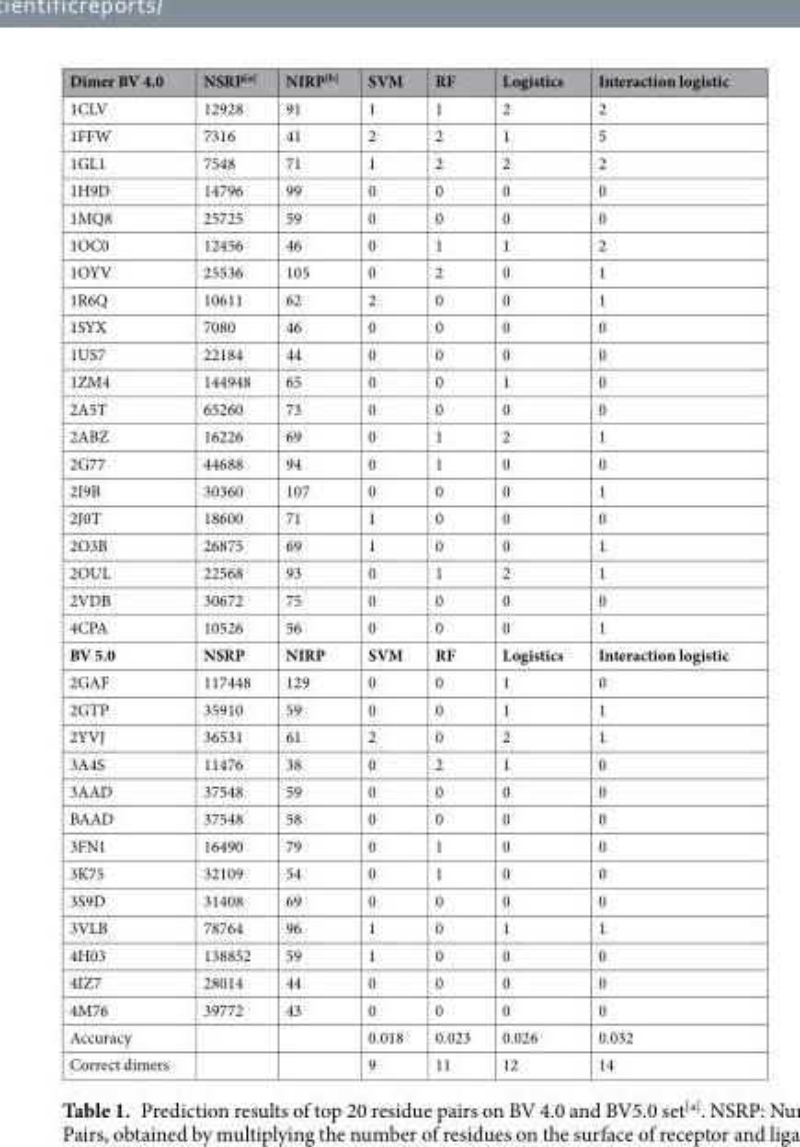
<table><thead><tr><td>Dimer BV 4.0</td><td>NSRP<sup>[a]</sup></td><td>NIRP<sup>[b]</sup></td><td>SVM</td><td>RF</td><td>Logistics</td><td>Interaction logistic</td></tr></thead><tbody><tr><td>1CLV</td><td>12928</td><td>91</td><td>1</td><td>1</td><td>2</td><td>2</td></tr><tr><td>1FFW</td><td>7316</td><td>41</td><td>2</td><td>2</td><td>1</td><td>5</td></tr><tr><td>1GL1</td><td>7548</td><td>71</td><td>1</td><td>2</td><td>2</td><td>2</td></tr><tr><td>1H9D</td><td>14796</td><td>99</td><td>0</td><td>0</td><td>0</td><td>0</td></tr><tr><td>1MQ8</td><td>25725</td><td>59</td><td>0</td><td>0</td><td>0</td><td>0</td></tr><tr><td>1OC0</td><td>12456</td><td>46</td><td>0</td><td>1</td><td>1</td><td>2</td></tr><tr><td>1OYV</td><td>25536</td><td>105</td><td>0</td><td>2</td><td>0</td><td>1</td></tr><tr><td>1R6Q</td><td>10611</td><td>62</td><td>2</td><td>0</td><td>0</td><td>1</td></tr><tr><td>1SYX</td><td>7080</td><td>46</td><td>0</td><td>0</td><td>0</td><td>0</td></tr><tr><td>1US7</td><td>22184</td><td>44</td><td>0</td><td>0</td><td>0</td><td>0</td></tr><tr><td>1ZM4</td><td>144948</td><td>65</td><td>0</td><td>0</td><td>1</td><td>0</td></tr><tr><td>2A5T</td><td>65260</td><td>73</td><td>0</td><td>0</td><td>0</td><td>0</td></tr><tr><td>2ABZ</td><td>16226</td><td>69</td><td>0</td><td>1</td><td>2</td><td>1</td></tr><tr><td>2G77</td><td>44688</td><td>94</td><td>0</td><td>1</td><td>0</td><td>0</td></tr><tr><td>2I9B</td><td>30360</td><td>107</td><td>0</td><td>0</td><td>0</td><td>1</td></tr><tr><td>2J0T</td><td>18600</td><td>71</td><td>1</td><td>0</td><td>0</td><td>0</td></tr><tr><td>2O3B</td><td>26875</td><td>69</td><td>1</td><td>0</td><td>0</td><td>1</td></tr><tr><td>2OUL</td><td>22568</td><td>93</td><td>0</td><td>1</td><td>2</td><td>1</td></tr><tr><td>2VDB</td><td>30672</td><td>75</td><td>0</td><td>0</td><td>0</td><td>0</td></tr><tr><td>4CPA</td><td>10526</td><td>56</td><td>0</td><td>0</td><td>0</td><td>1</td></tr><tr><td>BV 5.0</td><td>NSRP</td><td>NIRP</td><td>SVM</td><td>RF</td><td>Logistics</td><td>Interaction logistic</td></tr><tr><td>2GAF</td><td>117448</td><td>129</td><td>0</td><td>0</td><td>1</td><td>0</td></tr><tr><td>2GTP</td><td>35910</td><td>59</td><td>0</td><td>0</td><td>1</td><td>1</td></tr><tr><td>2YVJ</td><td>36531</td><td>61</td><td>2</td><td>0</td><td>2</td><td>1</td></tr><tr><td>3A4S</td><td>11476</td><td>38</td><td>0</td><td>2</td><td>1</td><td>0</td></tr><tr><td>3AAD</td><td>37548</td><td>59</td><td>0</td><td>0</td><td>0</td><td>0</td></tr><tr><td>BAAD</td><td>37548</td><td>58</td><td>0</td><td>0</td><td>0</td><td>0</td></tr><tr><td>3FN1</td><td>16490</td><td>79</td><td>0</td><td>1</td><td>0</td><td>0</td></tr><tr><td>3K75</td><td>32109</td><td>54</td><td>0</td><td>1</td><td>0</td><td>0</td></tr><tr><td>3S9D</td><td>31408</td><td>69</td><td>0</td><td>0</td><td>0</td><td>0</td></tr><tr><td>3VLB</td><td>78764</td><td>96</td><td>1</td><td>0</td><td>1</td><td>1</td></tr><tr><td>4H03</td><td>138852</td><td>59</td><td>1</td><td>0</td><td>0</td><td>0</td></tr><tr><td>4IZ7</td><td>28014</td><td>44</td><td>0</td><td>0</td><td>0</td><td>0</td></tr><tr><td>4M76</td><td>39772</td><td>43</td><td>0</td><td>0</td><td>0</td><td>0</td></tr><tr><td>Accuracy</td><td></td><td></td><td>0.018</td><td>0.023</td><td>0.026</td><td>0.032</td></tr><tr><td>Correct dimers</td><td></td><td></td><td>9</td><td>11</td><td>12</td><td>14</td></tr></tbody></table>